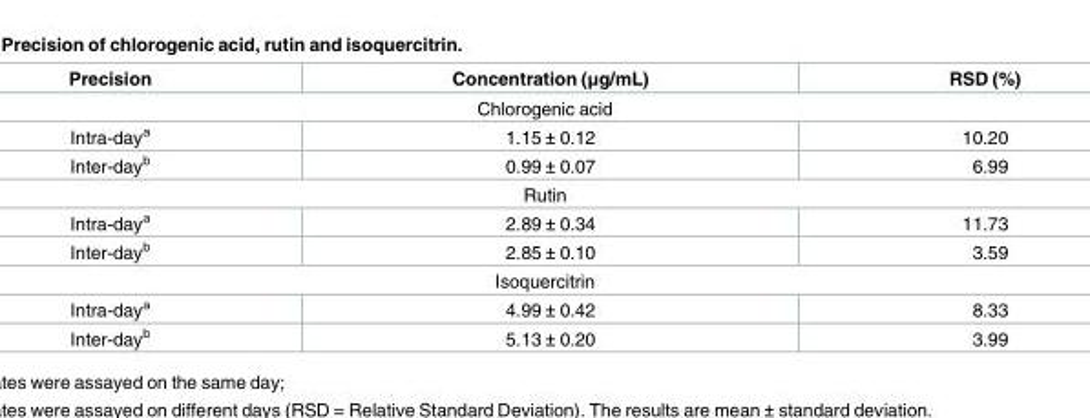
<table><thead><tr><td>Precision</td><td>Concentration (μg/mL)</td><td>RSD (%)</td></tr></thead><tbody><tr><td colspan="3">Chlorogenic acid</td></tr><tr><td>Intra-day<sup>a</sup></td><td>1.15 ± 0.12</td><td>10.20</td></tr><tr><td>Inter-day<sup>b</sup></td><td>0.99 ± 0.07</td><td>6.99</td></tr><tr><td colspan="3">Rutin</td></tr><tr><td>Intra-day<sup>a</sup></td><td>2.89 ± 0.34</td><td>11.73</td></tr><tr><td>Inter-day<sup>b</sup></td><td>2.85 ± 0.10</td><td>3.59</td></tr><tr><td colspan="3">Isoquercitrin</td></tr><tr><td>Intra-day<sup>a</sup></td><td>4.99 ± 0.42</td><td>8.33</td></tr><tr><td>Inter-day<sup>b</sup></td><td>5.13 ± 0.20</td><td>3.99</td></tr></tbody></table>